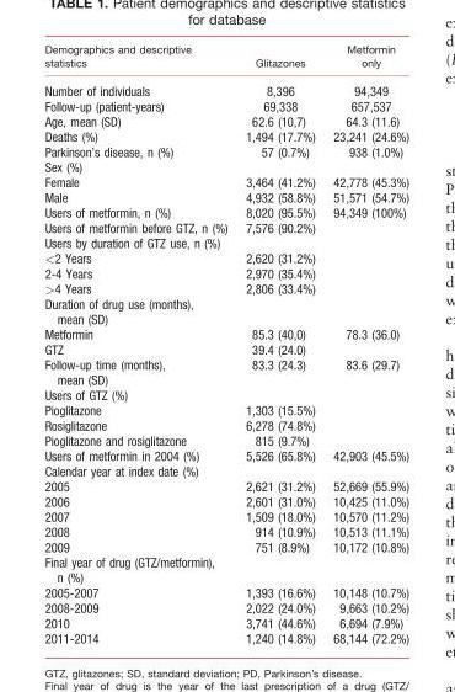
<table><thead><tr><td>Demographics and descriptive statistics</td><td>Glitazones</td><td>Metformin only</td></tr></thead><tbody><tr><td>Number of individuals</td><td>8,396</td><td>94,349</td></tr><tr><td>Follow-up (patient-years)</td><td>69,338</td><td>657,537</td></tr><tr><td>Age, mean (SD)</td><td>62.6 (10,7)</td><td>64.3 (11.6)</td></tr><tr><td>Deaths (%)</td><td>1,494 (17.7%)</td><td>23,241 (24.6%)</td></tr><tr><td>Parkinson’s disease, n (%)</td><td>57 (0.7%)</td><td>938 (1.0%)</td></tr><tr><td colspan="3">Sex (%)</td></tr><tr><td>Female</td><td>3,464 (41.2%)</td><td>42,778 (45.3%)</td></tr><tr><td>Male</td><td>4,932 (58.8%)</td><td>51,571 (54.7%)</td></tr><tr><td>Users of metformin, n (%)</td><td>8,020 (95.5%)</td><td>94,349 (100%)</td></tr><tr><td>Users of metformin before GTZ, n (%)</td><td>7,576 (90.2%)</td><td></td></tr><tr><td colspan="3">Users by duration of GTZ use, n (%)</td></tr><tr><td>&lt;2 Years</td><td>2,620 (31.2%)</td><td></td></tr><tr><td>2-4 Years</td><td>2,970 (35.4%)</td><td></td></tr><tr><td>&gt;4 Years</td><td>2,806 (33.4%)</td><td></td></tr><tr><td colspan="3">Duration of drug use (months), mean (SD)</td></tr><tr><td>Metformin</td><td>85.3 (40,0)</td><td>78.3 (36.0)</td></tr><tr><td>GTZ</td><td>39.4 (24.0)</td><td></td></tr><tr><td>Follow-up time (months), mean (SD)</td><td>83.3 (24.3)</td><td>83.6 (29.7)</td></tr><tr><td colspan="3">Users of GTZ (%)</td></tr><tr><td>Pioglitazone</td><td>1,303 (15.5%)</td><td></td></tr><tr><td>Rosiglitazone</td><td>6,278 (74.8%)</td><td></td></tr><tr><td>Pioglitazone and rosiglitazone</td><td>815 (9.7%)</td><td></td></tr><tr><td>Users of metformin in 2004 (%)</td><td>5,526 (65.8%)</td><td>42,903 (45.5%)</td></tr><tr><td colspan="3">Calendar year at index date (%)</td></tr><tr><td>2005</td><td>2,621 (31.2%)</td><td>52,669 (55.9%)</td></tr><tr><td>2006</td><td>2,601 (31.0%)</td><td>10,425 (11.0%)</td></tr><tr><td>2007</td><td>1,509 (18.0%)</td><td>10,570 (11.2%)</td></tr><tr><td>2008</td><td>914 (10.9%)</td><td>10,513 (11.1%)</td></tr><tr><td>2009</td><td>751 (8.9%)</td><td>10,172 (10.8%)</td></tr><tr><td colspan="3">Final year of drug (GTZ/metformin), n (%)</td></tr><tr><td>2005-2007</td><td>1,393 (16.6%)</td><td>10,148 (10.7%)</td></tr><tr><td>2008-2009</td><td>2,022 (24.0%)</td><td>9,663 (10.2%)</td></tr><tr><td>2010</td><td>3,741 (44.6%)</td><td>6,694 (7.9%)</td></tr><tr><td>2011-2014</td><td>1,240 (14.8%)</td><td>68,144 (72.2%)</td></tr></tbody></table>